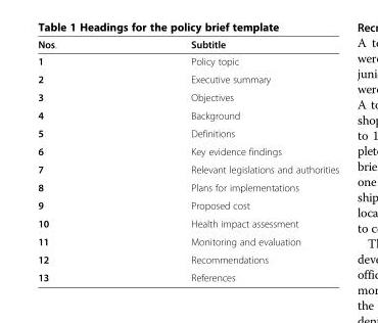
<table><thead><tr><td>Nos.</td><td>Subtitle</td></tr></thead><tbody><tr><td>1</td><td>Policy topic</td></tr><tr><td>2</td><td>Executive summary</td></tr><tr><td>3</td><td>Objectives</td></tr><tr><td>4</td><td>Background</td></tr><tr><td>5</td><td>Definitions</td></tr><tr><td>6</td><td>Key evidence findings</td></tr><tr><td>7</td><td>Relevant legislations and authorities</td></tr><tr><td>8</td><td>Plans for implementations</td></tr><tr><td>9</td><td>Proposed cost</td></tr><tr><td>10</td><td>Health impact assessment</td></tr><tr><td>11</td><td>Monitoring and evaluation</td></tr><tr><td>12</td><td>Recommendations</td></tr><tr><td>13</td><td>References</td></tr></tbody></table>